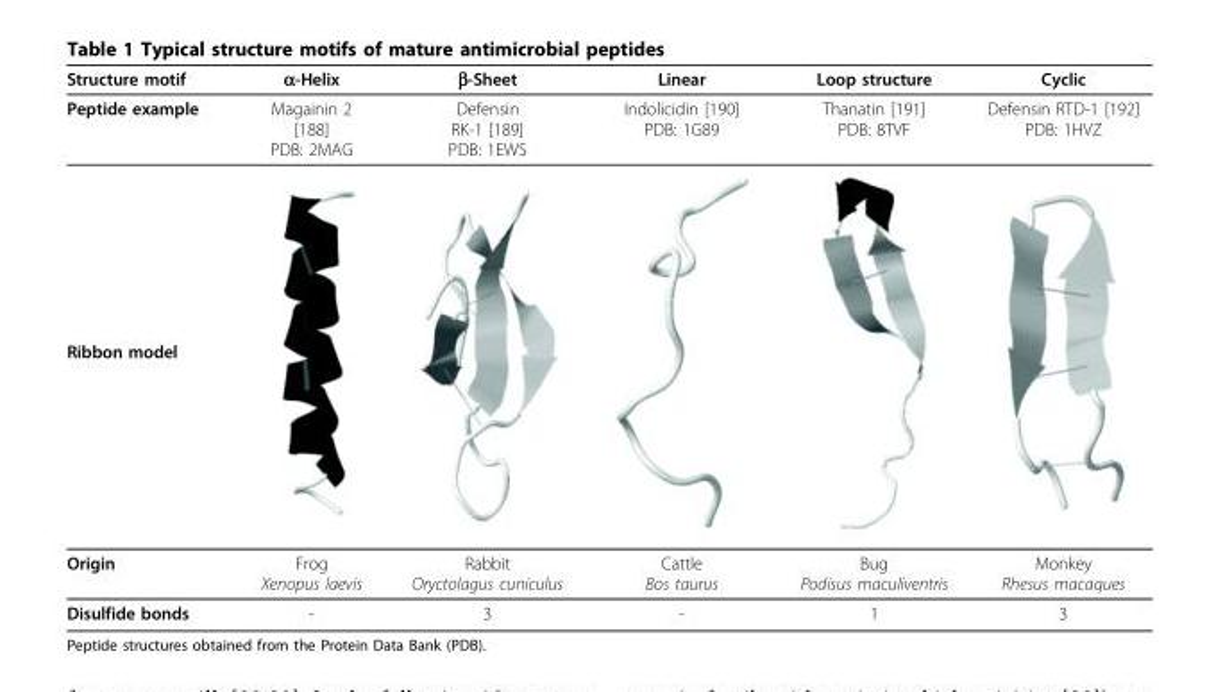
<table><thead><tr><td>Structure motif</td><td>α-Helix</td><td>β-Sheet</td><td>Linear</td><td>Loop structure</td><td>Cyclic</td></tr></thead><tbody><tr><td>Peptide example</td><td>Magainin 2 [188] PDB: 2MAG</td><td>Defensin RK-1 [189] PDB: 1EWS</td><td>Indolicidin [190] PDB: 1G89</td><td>Thanatin [191] PDB: 8TVF</td><td>Defensin RTD-1 [192] PDB: 1HVZ</td></tr><tr><td colspan="6">Ribbon model</td></tr><tr><td>Origin</td><td>Frog Xenopus laevis</td><td>Rabbit Oryctolagus cuniculus</td><td>Cattle Bos taurus</td><td>Bug Podisus maculiventris</td><td>Monkey Rhesus macaques</td></tr><tr><td>Disulfide bonds</td><td>-</td><td>3</td><td>-</td><td>1</td><td>3</td></tr></tbody></table>